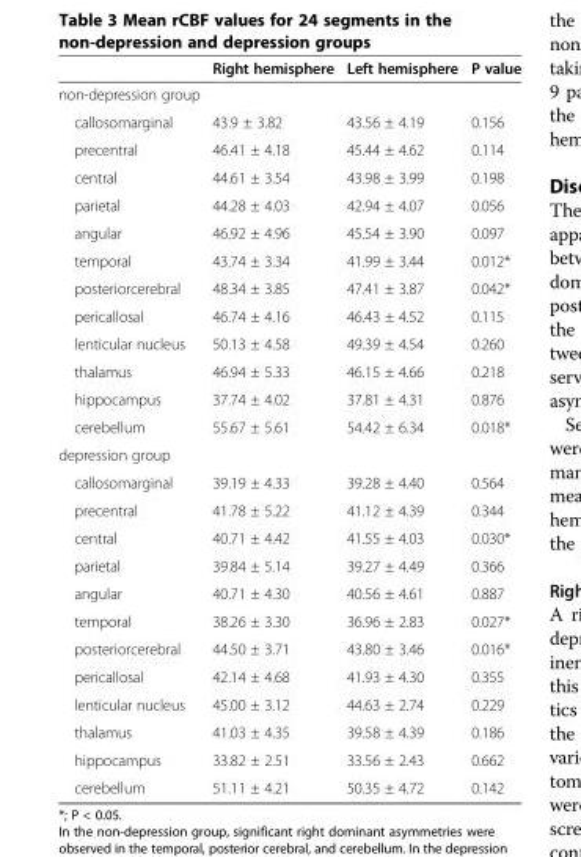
<table><thead><tr><td></td><td>Right hemisphere</td><td>Left hemisphere</td><td>P value</td></tr></thead><tbody><tr><td colspan="4">non-depression group</td></tr><tr><td>callosomarginal</td><td>43.9 ± 3.82</td><td>43.56 ± 4.19</td><td>0.156</td></tr><tr><td>precentral</td><td>46.41 ± 4.18</td><td>45.44 ± 4.62</td><td>0.114</td></tr><tr><td>central</td><td>44.61 ± 3.54</td><td>43.98 ± 3.99</td><td>0.198</td></tr><tr><td>parietal</td><td>44.28 ± 4.03</td><td>42.94 ± 4.07</td><td>0.056</td></tr><tr><td>angular</td><td>46.92 ± 4.96</td><td>45.54 ± 3.90</td><td>0.097</td></tr><tr><td>temporal</td><td>43.74 ± 3.34</td><td>41.99 ± 3.44</td><td>0.012*</td></tr><tr><td>posteriorcerebral</td><td>48.34 ± 3.85</td><td>47.41 ± 3.87</td><td>0.042*</td></tr><tr><td>pericallosal</td><td>46.74 ± 4.16</td><td>46.43 ± 4.52</td><td>0.115</td></tr><tr><td>lenticular nucleus</td><td>50.13 ± 4.58</td><td>49.39 ± 4.54</td><td>0.260</td></tr><tr><td>thalamus</td><td>46.94 ± 5.33</td><td>46.15 ± 4.66</td><td>0.218</td></tr><tr><td>hippocampus</td><td>37.74 ± 4.02</td><td>37.81 ± 4.31</td><td>0.876</td></tr><tr><td>cerebellum</td><td>55.67 ± 5.61</td><td>54.42 ± 6.34</td><td>0.018*</td></tr><tr><td colspan="4">depression group</td></tr><tr><td>callosomarginal</td><td>39.19 ± 4.33</td><td>39.28 ± 4.40</td><td>0.564</td></tr><tr><td>precentral</td><td>41.78 ± 5.22</td><td>41.12 ± 4.39</td><td>0.344</td></tr><tr><td>central</td><td>40.71 ± 4.42</td><td>41.55 ± 4.03</td><td>0.030*</td></tr><tr><td>parietal</td><td>39.84 ± 5.14</td><td>39.27 ± 4.49</td><td>0.366</td></tr><tr><td>angular</td><td>40.71 ± 4.30</td><td>40.56 ± 4.61</td><td>0.887</td></tr><tr><td>temporal</td><td>38.26 ± 3.30</td><td>36.96 ± 2.83</td><td>0.027*</td></tr><tr><td>posteriorcerebral</td><td>44.50 ± 3.71</td><td>43.80 ± 3.46</td><td>0.016*</td></tr><tr><td>pericallosal</td><td>42.14 ± 4.68</td><td>41.93 ± 4.30</td><td>0.355</td></tr><tr><td>lenticular nucleus</td><td>45.00 ± 3.12</td><td>44.63 ± 2.74</td><td>0.229</td></tr><tr><td>thalamus</td><td>41.03 ± 4.35</td><td>39.58 ± 4.39</td><td>0.186</td></tr><tr><td>hippocampus</td><td>33.82 ± 2.51</td><td>33.56 ± 2.43</td><td>0.662</td></tr><tr><td>cerebellum</td><td>51.11 ± 4.21</td><td>50.35 ± 4.72</td><td>0.142</td></tr></tbody></table>